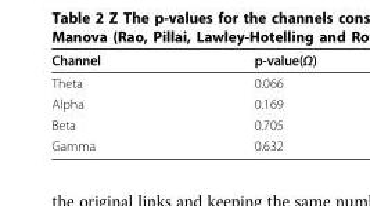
<table><thead><tr><td>Channel</td><td>p-value(Ω)</td></tr></thead><tbody><tr><td>Theta</td><td>0.066</td></tr><tr><td>Alpha</td><td>0.169</td></tr><tr><td>Beta</td><td>0.705</td></tr><tr><td>Gamma</td><td>0.632</td></tr></tbody></table>